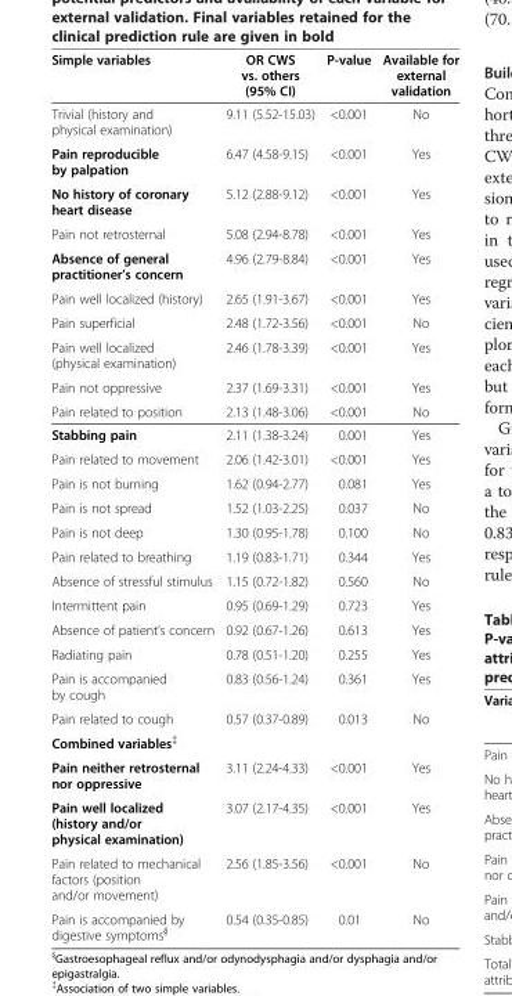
<table><thead><tr><td>Simple variables</td><td>OR CWS vs. others (95% CI)</td><td>P-value</td><td>Available for external validation</td></tr></thead><tbody><tr><td>Trivial (history and physical examination)</td><td>9.11 (5.52-15.03)</td><td>&lt;0.001</td><td>No</td></tr><tr><td>Pain reproducible by palpation</td><td>6.47 (4.58-9.15)</td><td>&lt;0.001</td><td>Yes</td></tr><tr><td>No history of coronary heart disease</td><td>5.12 (2.88-9.12)</td><td>&lt;0.001</td><td>Yes</td></tr><tr><td>Pain not retrosternal</td><td>5.08 (2.94-8.78)</td><td>&lt;0.001</td><td>Yes</td></tr><tr><td>Absence of general practitioner’s concern</td><td>4.96 (2.79-8.84)</td><td>&lt;0.001</td><td>Yes</td></tr><tr><td>Pain well localized (history)</td><td>2.65 (1.91-3.67)</td><td>&lt;0.001</td><td>Yes</td></tr><tr><td>Pain superficial</td><td>2.48 (1.72-3.56)</td><td>&lt;0.001</td><td>No</td></tr><tr><td>Pain well localized (physical examination)</td><td>2.46 (1.78-3.39)</td><td>&lt;0.001</td><td>Yes</td></tr><tr><td>Pain not oppressive</td><td>2.37 (1.69-3.31)</td><td>&lt;0.001</td><td>Yes</td></tr><tr><td>Pain related to position</td><td>2.13 (1.48-3.06)</td><td>&lt;0.001</td><td>No</td></tr><tr><td>Stabbing pain</td><td>2.11 (1.38-3.24)</td><td>0.001</td><td>Yes</td></tr><tr><td>Pain related to movement</td><td>2.06 (1.42-3.01)</td><td>&lt;0.001</td><td>Yes</td></tr><tr><td>Pain is not burning</td><td>1.62 (0.94-2.77)</td><td>0.081</td><td>Yes</td></tr><tr><td>Pain is not spread</td><td>1.52 (1.03-2.25)</td><td>0.037</td><td>No</td></tr><tr><td>Pain is not deep</td><td>1.30 (0.95-1.78)</td><td>0.100</td><td>No</td></tr><tr><td>Pain related to breathing</td><td>1.19 (0.83-1.71)</td><td>0.344</td><td>Yes</td></tr><tr><td>Absence of stressful stimulus</td><td>1.15 (0.72-1.82)</td><td>0.560</td><td>No</td></tr><tr><td>Intermittent pain</td><td>0.95 (0.69-1.29)</td><td>0.723</td><td>Yes</td></tr><tr><td>Absence of patient’s concern</td><td>0.92 (0.67-1.26)</td><td>0.613</td><td>Yes</td></tr><tr><td>Radiating pain</td><td>0.78 (0.51-1.20)</td><td>0.255</td><td>Yes</td></tr><tr><td>Pain is accompanied by cough</td><td>0.83 (0.56-1.24)</td><td>0.361</td><td>Yes</td></tr><tr><td>Pain related to cough</td><td>0.57 (0.37-0.89)</td><td>0.013</td><td>No</td></tr><tr><td colspan="4">Combined variables<sup>‡</sup></td></tr><tr><td>Pain neither retrosternal nor oppressive</td><td>3.11 (2.24-4.33)</td><td>&lt;0.001</td><td>Yes</td></tr><tr><td>Pain well localized (history and/or physical examination)</td><td>3.07 (2.17-4.35)</td><td>&lt;0.001</td><td>Yes</td></tr><tr><td>Pain related to mechanical factors (position and/or movement)</td><td>2.56 (1.85-3.56)</td><td>&lt;0.001</td><td>No</td></tr><tr><td>Pain is accompanied by digestive symptoms<sup>§</sup></td><td>0.54 (0.35-0.85)</td><td>0.01</td><td>No</td></tr></tbody></table>